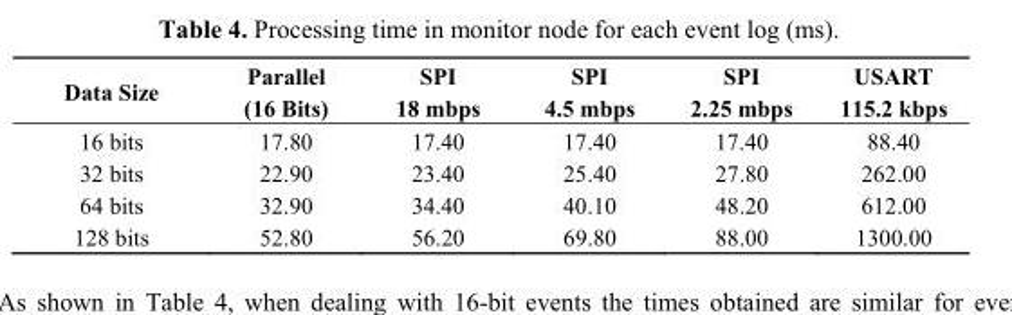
<table><thead><tr><td>Data Size</td><td>Parallel (16 Bits)</td><td>SPI 18 mbps</td><td>SPI 4.5 mbps</td><td>SPI 2.25 mbps</td><td>USART 115.2 kbps</td></tr></thead><tbody><tr><td>16 bits</td><td>17.80</td><td>17.40</td><td>17.40</td><td>17.40</td><td>88.40</td></tr><tr><td>32 bits</td><td>22.90</td><td>23.40</td><td>25.40</td><td>27.80</td><td>262.00</td></tr><tr><td>64 bits</td><td>32.90</td><td>34.40</td><td>40.10</td><td>48.20</td><td>612.00</td></tr><tr><td>128 bits</td><td>52.80</td><td>56.20</td><td>69.80</td><td>88.00</td><td>1300.00</td></tr></tbody></table>